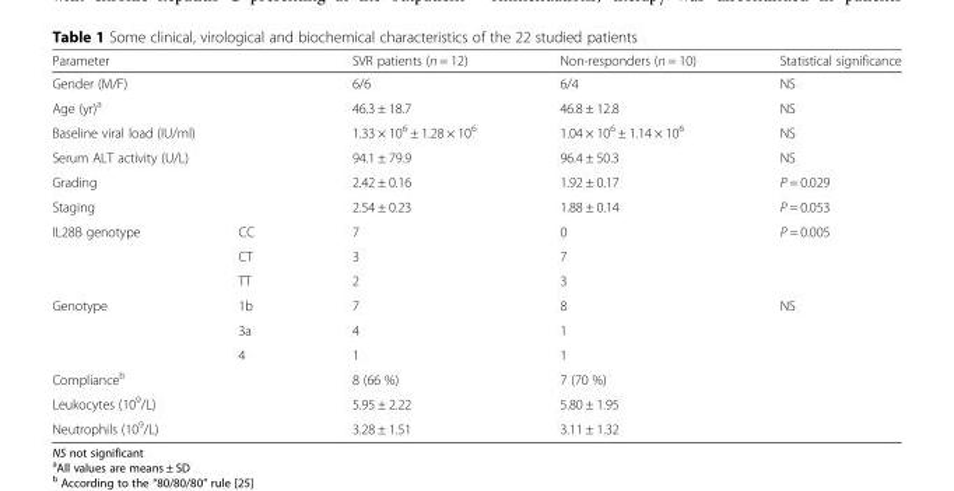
<table><thead><tr><td colspan="2">Parameter</td><td>SVR patients (n = 12)</td><td>Non-responders (n = 10)</td><td>Statistical significance</td></tr></thead><tbody><tr><td colspan="2">Gender (M/F)</td><td>6/6</td><td>6/4</td><td>NS</td></tr><tr><td colspan="2">Age (yr)<sup>a</sup></td><td>46.3 ± 18.7</td><td>46.8 ± 12.8</td><td>NS</td></tr><tr><td colspan="2">Baseline viral load (IU/ml)</td><td>1.33 × 10<sup>6</sup> ± 1.28 × 10<sup>6</sup></td><td>1.04 × 10<sup>6</sup> ± 1.14 × 10<sup>6</sup></td><td>NS</td></tr><tr><td colspan="2">Serum ALT activity (U/L)</td><td>94.1 ± 79.9</td><td>96.4 ± 50.3</td><td>NS</td></tr><tr><td colspan="2">Grading</td><td>2.42 ± 0.16</td><td>1.92 ± 0.17</td><td>P = 0.029</td></tr><tr><td colspan="2">Staging</td><td>2.54 ± 0.23</td><td>1.88 ± 0.14</td><td>P = 0.053</td></tr><tr><td rowspan="3">IL28B genotype</td><td>CC</td><td>7</td><td>0</td><td rowspan="3">P = 0.005</td></tr><tr><td>CT</td><td>3</td><td>7</td></tr><tr><td>TT</td><td>2</td><td>3</td></tr><tr><td rowspan="3">Genotype</td><td>1b</td><td>7</td><td>8</td><td rowspan="3">NS</td></tr><tr><td>3a</td><td>4</td><td>1</td></tr><tr><td>4</td><td>1</td><td>1</td></tr><tr><td colspan="2">Compliance<sup>b</sup></td><td>8 (66 %)</td><td>7 (70 %)</td><td></td></tr><tr><td colspan="2">Leukocytes (10<sup>9</sup>/L)</td><td>5.95 ± 2.22</td><td>5.80 ± 1.95</td><td></td></tr><tr><td colspan="2">Neutrophils (10<sup>9</sup>/L)</td><td>3.28 ± 1.51</td><td>3.11 ± 1.32</td><td></td></tr></tbody></table>